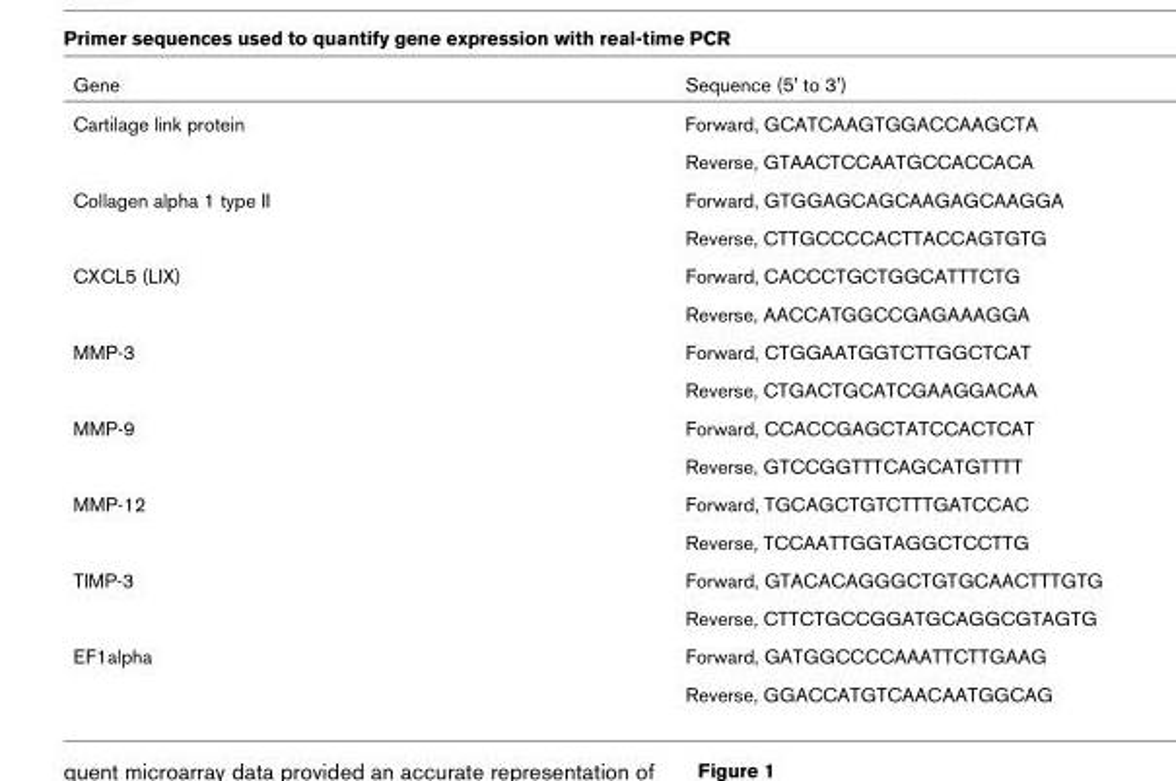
<table><thead><tr><td>Gene</td><td>Sequence (5&#x27; to 3&#x27;)</td></tr></thead><tbody><tr><td rowspan="2">Cartilage link protein</td><td>Forward, GCATCAAGTGGACCAAGCTA</td></tr><tr><td>Reverse, GTAACTCCAATGCCACCACA</td></tr><tr><td rowspan="2">Collagen alpha 1 type II</td><td>Forward, GTGGAGCAGCAAGAGCAAGGA</td></tr><tr><td>Reverse, CTTGCCCCACTTACCAGTGTG</td></tr><tr><td rowspan="2">CXCL5 (LIX)</td><td>Forward, CACCCTGCTGGCATTTCTG</td></tr><tr><td>Reverse, AACCATGGCCGAGAAAGGA</td></tr><tr><td rowspan="2">MMP-3</td><td>Forward, CTGGAATGGTCTTGGCTCAT</td></tr><tr><td>Reverse, CTGACTGCATCGAAGGACAA</td></tr><tr><td rowspan="2">MMP-9</td><td>Forward, CCACCGAGCTATCCACTCAT</td></tr><tr><td>Reverse, GTCCGGTTTCAGCATGTTTT</td></tr><tr><td rowspan="2">MMP-12</td><td>Forward, TGCAGCTGTCTTTGATCCAC</td></tr><tr><td>Reverse, TCCAATTGGTAGGCTCCTTG</td></tr><tr><td rowspan="2">TIMP-3</td><td>Forward, GTACACAGGGCTGTGCAACTTTGTG</td></tr><tr><td>Reverse, CTTCTGCCGGATGCAGGCGTAGTG</td></tr><tr><td rowspan="2">EF1alpha</td><td>Forward, GATGGCCCCAAATTCTTGAAG</td></tr><tr><td>Reverse, GGACCATGTCAACAATGGCAG</td></tr></tbody></table>